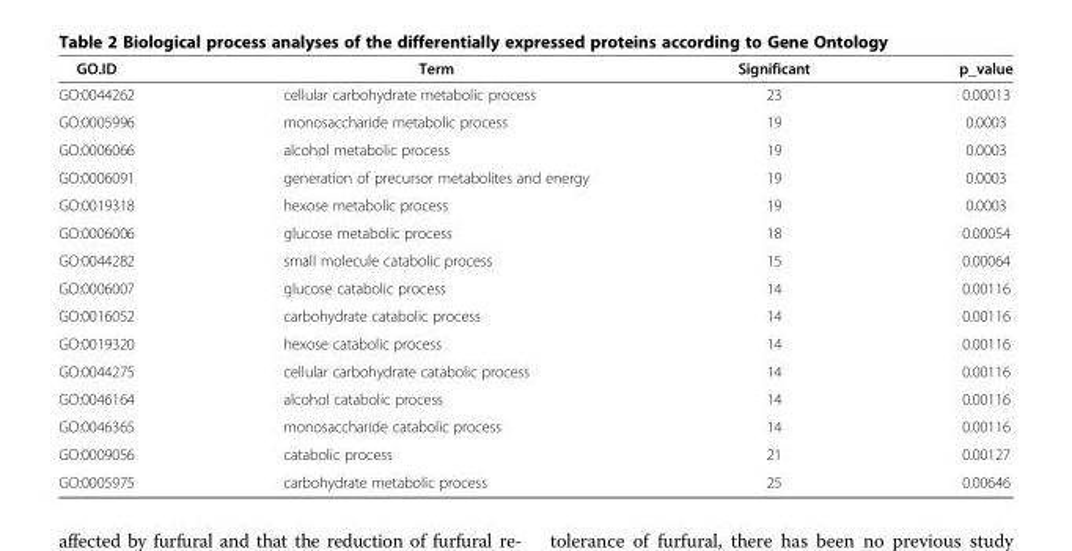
<table><thead><tr><td>GO.ID</td><td>Term</td><td>Significant</td><td>p_value</td></tr></thead><tbody><tr><td>GO:0044262</td><td>cellular carbohydrate metabolic process</td><td>23</td><td>0.00013</td></tr><tr><td>GO:0005996</td><td>monosaccharide metabolic process</td><td>19</td><td>0.0003</td></tr><tr><td>GO:0006066</td><td>alcohol metabolic process</td><td>19</td><td>0.0003</td></tr><tr><td>GO:0006091</td><td>generation of precursor metabolites and energy</td><td>19</td><td>0.0003</td></tr><tr><td>GO:0019318</td><td>hexose metabolic process</td><td>19</td><td>0.0003</td></tr><tr><td>GO:0006006</td><td>glucose metabolic process</td><td>18</td><td>0.00054</td></tr><tr><td>GO:0044282</td><td>small molecule catabolic process</td><td>15</td><td>0.00064</td></tr><tr><td>GO:0006007</td><td>glucose catabolic process</td><td>14</td><td>0.00116</td></tr><tr><td>GO:0016052</td><td>carbohydrate catabolic process</td><td>14</td><td>0.00116</td></tr><tr><td>GO:0019320</td><td>hexose catabolic process</td><td>14</td><td>0.00116</td></tr><tr><td>GO:0044275</td><td>cellular carbohydrate catabolic process</td><td>14</td><td>0.00116</td></tr><tr><td>GO:0046164</td><td>alcohol catabolic process</td><td>14</td><td>0.00116</td></tr><tr><td>GO:0046365</td><td>monosaccharide catabolic process</td><td>14</td><td>0.00116</td></tr><tr><td>GO:0009056</td><td>catabolic process</td><td>21</td><td>0.00127</td></tr><tr><td>GO:0005975</td><td>carbohydrate metabolic process</td><td>25</td><td>0.00646</td></tr></tbody></table>